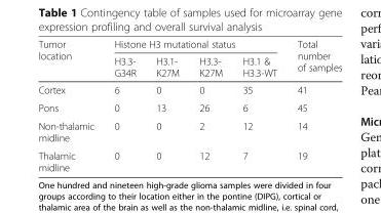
<table><thead><tr><td rowspan="2">Tumor location</td><td colspan="4">Histone H3 mutational status</td><td rowspan="2">Total number of samples</td></tr><tr><td>H3.3- G34R</td><td>H3.1- K27M</td><td>H3.3- K27M</td><td>H3.1 &amp; H3.3-WT</td></tr></thead><tbody><tr><td>Cortex</td><td>6</td><td>0</td><td>0</td><td>35</td><td>41</td></tr><tr><td>Pons</td><td>0</td><td>13</td><td>26</td><td>6</td><td>45</td></tr><tr><td>Non-thalamic midline</td><td>0</td><td>0</td><td>2</td><td>12</td><td>14</td></tr><tr><td>Thalamic midline</td><td>0</td><td>0</td><td>12</td><td>7</td><td>19</td></tr></tbody></table>